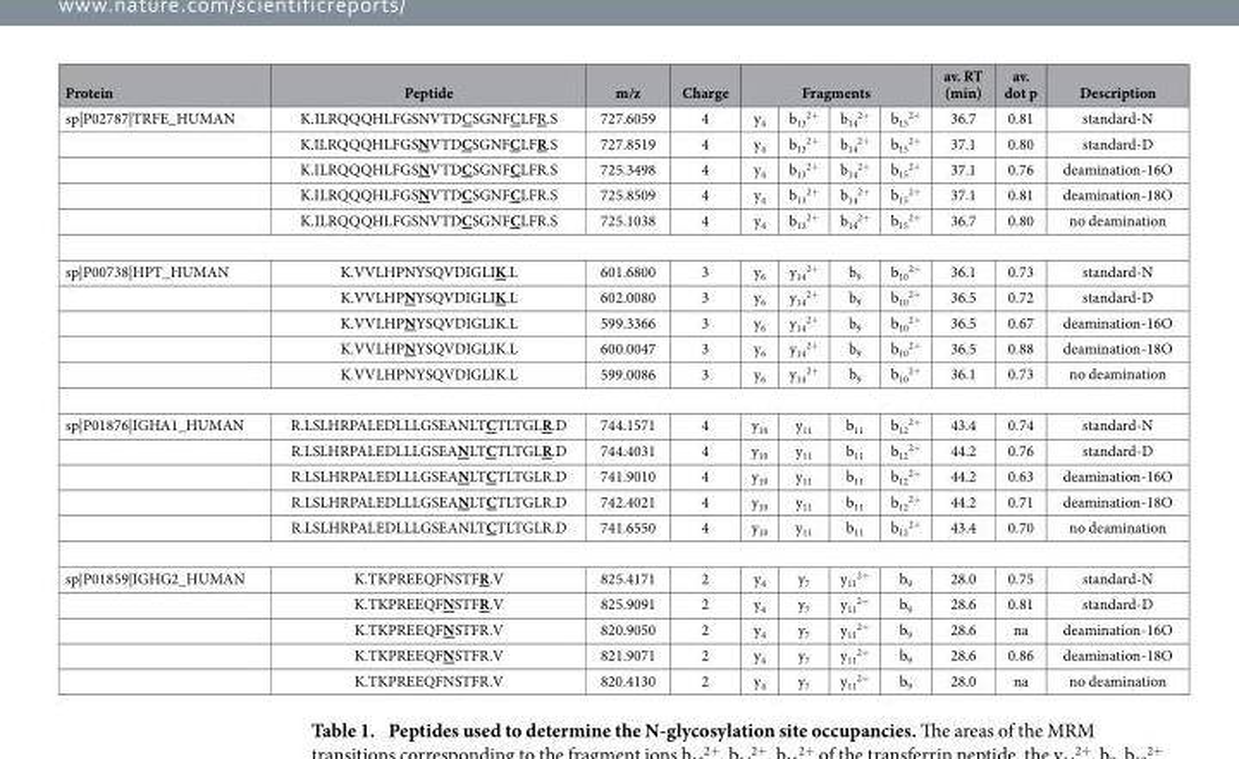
<table><thead><tr><td rowspan="2">Protein sp|P02787|TRFE_HUMAN</td><td rowspan="2">Peptide K.ILRQQQHLFGSNVTDCSGNFCLFR.S</td><td rowspan="2">m/z 727.6059</td><td rowspan="2">Charge 4</td><td colspan="4">Fragments</td><td rowspan="2">av. RT (min) 36.7</td><td rowspan="2">av. dot p 0.81</td><td rowspan="2">Description standard-N</td></tr><tr><td>y<sub>4</sub></td><td>b<sub>13</sub> <sup>2+</sup></td><td>b<sub>14</sub> <sup>2+</sup></td><td>b<sub>15</sub> <sup>2+</sup></td></tr></thead><tbody><tr><td></td><td>K.ILRQQQHLFGSNVTDCSGNFCLFR.S</td><td>727.8519</td><td>4</td><td>y<sub>4</sub></td><td>b<sub>13</sub> <sup>2+</sup></td><td>b<sub>14</sub> <sup>2+</sup></td><td>b<sub>15</sub> <sup>2+</sup></td><td>37.1</td><td>0.80</td><td>standard-D</td></tr><tr><td></td><td>K.ILRQQQHLFGSNVTDCSGNFCLFR.S</td><td>725.3498</td><td>4</td><td>y<sub>4</sub></td><td>b<sub>13</sub> <sup>2+</sup></td><td>b<sub>14</sub> <sup>2+</sup></td><td>b<sub>15</sub> <sup>2+</sup></td><td>37.1</td><td>0.76</td><td>deamination-16O</td></tr><tr><td></td><td>K.ILRQQQHLFGSNVTDCSGNFCLFR.S</td><td>725.8509</td><td>4</td><td>y<sub>4</sub></td><td>b<sub>13</sub> <sup>2+</sup></td><td>b<sub>14</sub> <sup>2+</sup></td><td>b<sub>15</sub> <sup>2+</sup></td><td>37.1</td><td>0.81</td><td>deamination-18O</td></tr><tr><td></td><td>K.ILRQQQHLFGSNVTDCSGNFCLFR.S</td><td>725.1038</td><td>4</td><td>y<sub>4</sub></td><td>b<sub>13</sub> <sup>2+</sup></td><td>b<sub>14</sub> <sup>2+</sup></td><td>b<sub>15</sub> <sup>2+</sup></td><td>36.7</td><td>0.80</td><td>no deamination</td></tr><tr><td rowspan="5">sp|P00738|HPT_HUMAN</td><td>K.VVLHPNYSQVDIGLIK.L</td><td>601.6800</td><td>3</td><td>y<sub>6</sub></td><td>y<sub>14</sub> <sup>2+</sup></td><td>b<sub>9</sub></td><td>b<sub>10</sub> <sup>2+</sup></td><td>36.1</td><td>0.73</td><td>standard-N</td></tr><tr><td>K.VVLHPNYSQVDIGLIK.L</td><td>602.0080</td><td>3</td><td>y<sub>6</sub></td><td>y<sub>14</sub> <sup>2+</sup></td><td>b<sub>9</sub></td><td>b<sub>10</sub> <sup>2+</sup></td><td>36.5</td><td>0.72</td><td>standard-D</td></tr><tr><td>K.VVLHPNYSQVDIGLIK.L</td><td>599.3366</td><td>3</td><td>y<sub>6</sub></td><td>y<sub>14</sub> <sup>2+</sup></td><td>b<sub>9</sub></td><td>b<sub>10</sub> <sup>2+</sup></td><td>36.5</td><td>0.67</td><td>deamination-16O</td></tr><tr><td>K.VVLHPNYSQVDIGLIK.L</td><td>600.0047</td><td>3</td><td>y<sub>6</sub></td><td>y<sub>14</sub> <sup>2+</sup></td><td>b<sub>9</sub></td><td>b<sub>10</sub> <sup>2+</sup></td><td>36.5</td><td>0.88</td><td>deamination-18O</td></tr><tr><td>K.VVLHPNYSQVDIGLIK.L</td><td>599.0086</td><td>3</td><td>y<sub>6</sub></td><td>y<sub>14</sub> <sup>2+</sup></td><td>b<sub>9</sub></td><td>b<sub>10</sub> <sup>2+</sup></td><td>36.1</td><td>0.73</td><td>no deamination</td></tr><tr><td rowspan="5">sp|P01876|IGHA1_HUMAN</td><td>R.LSLHRPALEDLLLGSEANLTCTLTGLR.D</td><td>744.1571</td><td>4</td><td>y<sub>10</sub></td><td>y<sub>11</sub></td><td>b<sub>11</sub></td><td>b<sub>12</sub> <sup>2+</sup></td><td>43.4</td><td>0.74</td><td>standard-N</td></tr><tr><td>R.LSLHRPALEDLLLGSEANLTCTLTGLR.D</td><td>744.4031</td><td>4</td><td>y<sub>10</sub></td><td>y<sub>11</sub></td><td>b<sub>11</sub></td><td>b<sub>12</sub> <sup>2+</sup></td><td>44.2</td><td>0.76</td><td>standard-D</td></tr><tr><td>R.LSLHRPALEDLLLGSEANLTCTLTGLR.D</td><td>741.9010</td><td>4</td><td>y<sub>10</sub></td><td>y<sub>11</sub></td><td>b<sub>11</sub></td><td>b<sub>12</sub> <sup>2+</sup></td><td>44.2</td><td>0.63</td><td>deamination-16O</td></tr><tr><td>R.LSLHRPALEDLLLGSEANLTCTLTGLR.D</td><td>742.4021</td><td>4</td><td>y<sub>10</sub></td><td>y<sub>11</sub></td><td>b<sub>11</sub></td><td>b<sub>12</sub> <sup>2+</sup></td><td>44.2</td><td>0.71</td><td>deamination-18O</td></tr><tr><td>R.LSLHRPALEDLLLGSEANLTCTLTGLR.D</td><td>741.6550</td><td>4</td><td>y<sub>10</sub></td><td>y<sub>11</sub></td><td>b<sub>11</sub></td><td>b<sub>12</sub> <sup>2+</sup></td><td>43.4</td><td>0.70</td><td>no deamination</td></tr><tr><td rowspan="5">sp|P01859|IGHG2_HUMAN</td><td>K.TKPREEQFNSTFR.V</td><td>825.4171</td><td>2</td><td>y<sub>4</sub></td><td>y<sub>7</sub></td><td>y<sub>11</sub> <sup>2+</sup></td><td>b<sub>9</sub></td><td>28.0</td><td>0.75</td><td>standard-N</td></tr><tr><td>K.TKPREEQFNSTFR.V</td><td>825.9091</td><td>2</td><td>y<sub>4</sub></td><td>y<sub>7</sub></td><td>y<sub>11</sub> <sup>2+</sup></td><td>b<sub>9</sub></td><td>28.6</td><td>0.81</td><td>standard-D</td></tr><tr><td>K.TKPREEQFNSTFR.V</td><td>820.9050</td><td>2</td><td>y<sub>4</sub></td><td>y<sub>7</sub></td><td>y<sub>11</sub> <sup>2+</sup></td><td>b<sub>9</sub></td><td>28.6</td><td>na</td><td>deamination-16O</td></tr><tr><td>K.TKPREEQFNSTFR.V</td><td>821.9071</td><td>2</td><td>y<sub>4</sub></td><td>y<sub>7</sub></td><td>y<sub>11</sub> <sup>2+</sup></td><td>b<sub>9</sub></td><td>28.6</td><td>0.86</td><td>deamination-18O</td></tr><tr><td>K.TKPREEQFNSTFR.V</td><td>820.4130</td><td>2</td><td>y<sub>4</sub></td><td>y<sub>7</sub></td><td>y<sub>11</sub> <sup>2+</sup></td><td>b<sub>9</sub></td><td>28.0</td><td>na</td><td>no deamination</td></tr></tbody></table>